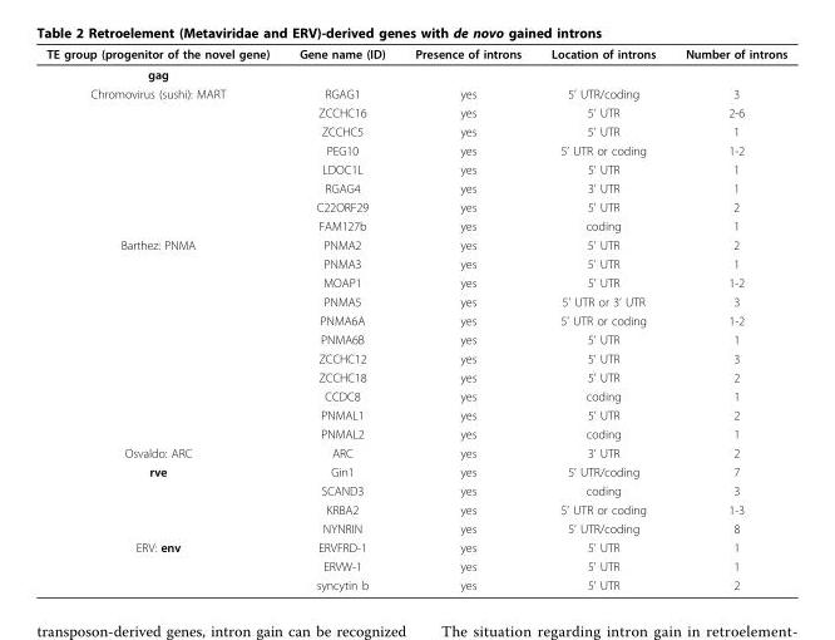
<table><thead><tr><td>TE group (progenitor of the novel gene)</td><td>Gene name (ID)</td><td>Presence of introns</td><td>Location of introns</td><td>Number of introns</td></tr></thead><tbody><tr><td colspan="5">gag</td></tr><tr><td rowspan="8">Chromovirus (sushi): MART</td><td>RGAG1</td><td>yes</td><td>5’ UTR/coding</td><td>3</td></tr><tr><td>ZCCHC16</td><td>yes</td><td>5’ UTR</td><td>2-6</td></tr><tr><td>ZCCHC5</td><td>yes</td><td>5’ UTR</td><td>1</td></tr><tr><td>PEG10</td><td>yes</td><td>5’ UTR or coding</td><td>1-2</td></tr><tr><td>LDOC1L</td><td>yes</td><td>5’ UTR</td><td>1</td></tr><tr><td>RGAG4</td><td>yes</td><td>3’ UTR</td><td>1</td></tr><tr><td>C22ORF29</td><td>yes</td><td>5’ UTR</td><td>2</td></tr><tr><td>FAM127b</td><td>yes</td><td>coding</td><td>1</td></tr><tr><td rowspan="11">Barthez: PNMA</td><td>PNMA2</td><td>yes</td><td>5’ UTR</td><td>2</td></tr><tr><td>PNMA3</td><td>yes</td><td>5’ UTR</td><td>1</td></tr><tr><td>MOAP1</td><td>yes</td><td>5’ UTR</td><td>1-2</td></tr><tr><td>PNMA5</td><td>yes</td><td>5’ UTR or 3’ UTR</td><td>3</td></tr><tr><td>PNMA6A</td><td>yes</td><td>5’ UTR or coding</td><td>1-2</td></tr><tr><td>PNMA6B</td><td>yes</td><td>5’ UTR</td><td>1</td></tr><tr><td>ZCCHC12</td><td>yes</td><td>5’ UTR</td><td>3</td></tr><tr><td>ZCCHC18</td><td>yes</td><td>5’ UTR</td><td>2</td></tr><tr><td>CCDC8</td><td>yes</td><td>coding</td><td>1</td></tr><tr><td>PNMAL1</td><td>yes</td><td>5’ UTR</td><td>2</td></tr><tr><td>PNMAL2</td><td>yes</td><td>coding</td><td>1</td></tr><tr><td>Osvaldo: ARC</td><td>ARC</td><td>yes</td><td>3’ UTR</td><td>2</td></tr><tr><td rowspan="4">rve</td><td>Gin1</td><td>yes</td><td>5’ UTR/coding</td><td>7</td></tr><tr><td>SCAND3</td><td>yes</td><td>coding</td><td>3</td></tr><tr><td>KRBA2</td><td>yes</td><td>5’ UTR or coding</td><td>1-3</td></tr><tr><td>NYNRIN</td><td>yes</td><td>5’ UTR/coding</td><td>8</td></tr><tr><td rowspan="3">ERV: env</td><td>ERVFRD-1</td><td>yes</td><td>5’ UTR</td><td>1</td></tr><tr><td>ERVW-1</td><td>yes</td><td>5’ UTR</td><td>1</td></tr><tr><td>syncytin b</td><td>yes</td><td>5’ UTR</td><td>2</td></tr></tbody></table>